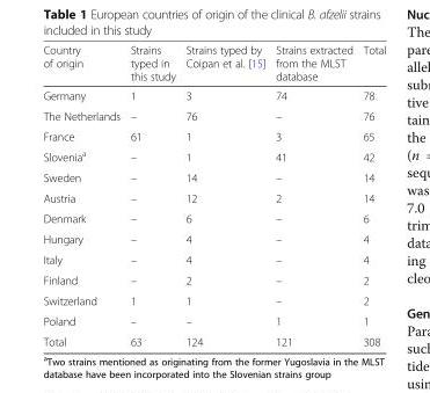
<table><thead><tr><td>Country of origin</td><td>Strains typed in this study</td><td>Strains typed by Coipan et al. [15]</td><td>Strains extracted from the MLST database</td><td>Total</td></tr></thead><tbody><tr><td>Germany</td><td>1</td><td>3</td><td>74</td><td>78</td></tr><tr><td>The Netherlands</td><td>–</td><td>76</td><td>–</td><td>76</td></tr><tr><td>France</td><td>61</td><td>1</td><td>3</td><td>65</td></tr><tr><td>Slovenia<sup>a</sup></td><td>–</td><td>1</td><td>41</td><td>42</td></tr><tr><td>Sweden</td><td>–</td><td>14</td><td>–</td><td>14</td></tr><tr><td>Austria</td><td>–</td><td>12</td><td>2</td><td>14</td></tr><tr><td>Denmark</td><td>–</td><td>6</td><td>–</td><td>6</td></tr><tr><td>Hungary</td><td>–</td><td>4</td><td>–</td><td>4</td></tr><tr><td>Italy</td><td>–</td><td>4</td><td>–</td><td>4</td></tr><tr><td>Finland</td><td>–</td><td>2</td><td>–</td><td>2</td></tr><tr><td>Switzerland</td><td>1</td><td>1</td><td>–</td><td>2</td></tr><tr><td>Poland</td><td>–</td><td>–</td><td>1</td><td>1</td></tr><tr><td>Total</td><td>63</td><td>124</td><td>121</td><td>308</td></tr></tbody></table>